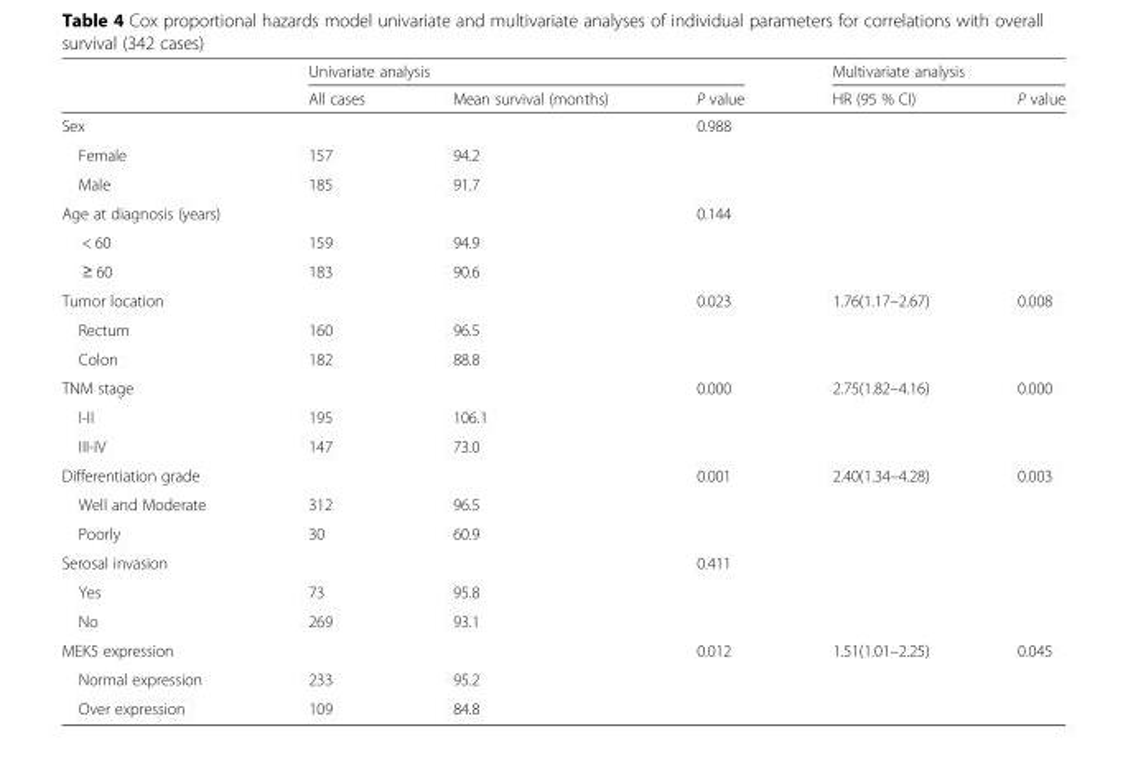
<table><thead><tr><td rowspan="2"></td><td colspan="3">Univariate analysis</td><td colspan="2">Multivariate analysis</td></tr><tr><td>All cases</td><td>Mean survival (months)</td><td>P value</td><td>HR (95 % CI)</td><td>P value</td></tr></thead><tbody><tr><td>Sex</td><td></td><td></td><td>0.988</td><td></td><td></td></tr><tr><td>Female</td><td>157</td><td>94.2</td><td></td><td></td><td></td></tr><tr><td>Male</td><td>185</td><td>91.7</td><td></td><td></td><td></td></tr><tr><td>Age at diagnosis (years)</td><td></td><td></td><td>0.144</td><td></td><td></td></tr><tr><td>&lt; 60</td><td>159</td><td>94.9</td><td></td><td></td><td></td></tr><tr><td>≥ 60</td><td>183</td><td>90.6</td><td></td><td></td><td></td></tr><tr><td>Tumor location</td><td></td><td></td><td>0.023</td><td>1.76(1.17–2.67)</td><td>0.008</td></tr><tr><td>Rectum</td><td>160</td><td>96.5</td><td></td><td></td><td></td></tr><tr><td>Colon</td><td>182</td><td>88.8</td><td></td><td></td><td></td></tr><tr><td>TNM stage</td><td></td><td></td><td>0.000</td><td>2.75(1.82–4.16)</td><td>0.000</td></tr><tr><td>I-II</td><td>195</td><td>106.1</td><td></td><td></td><td></td></tr><tr><td>III-IV</td><td>147</td><td>73.0</td><td></td><td></td><td></td></tr><tr><td>Differentiation grade</td><td></td><td></td><td>0.001</td><td>2.40(1.34–4.28)</td><td>0.003</td></tr><tr><td>Well and Moderate</td><td>312</td><td>96.5</td><td></td><td></td><td></td></tr><tr><td>Poorly</td><td>30</td><td>60.9</td><td></td><td></td><td></td></tr><tr><td>Serosal invasion</td><td></td><td></td><td>0.411</td><td></td><td></td></tr><tr><td>Yes</td><td>73</td><td>95.8</td><td></td><td></td><td></td></tr><tr><td>No</td><td>269</td><td>93.1</td><td></td><td></td><td></td></tr><tr><td>MEK5 expression</td><td></td><td></td><td>0.012</td><td>1.51(1.01–2.25)</td><td>0.045</td></tr><tr><td>Normal expression</td><td>233</td><td>95.2</td><td></td><td></td><td></td></tr><tr><td>Over expression</td><td>109</td><td>84.8</td><td></td><td></td><td></td></tr></tbody></table>